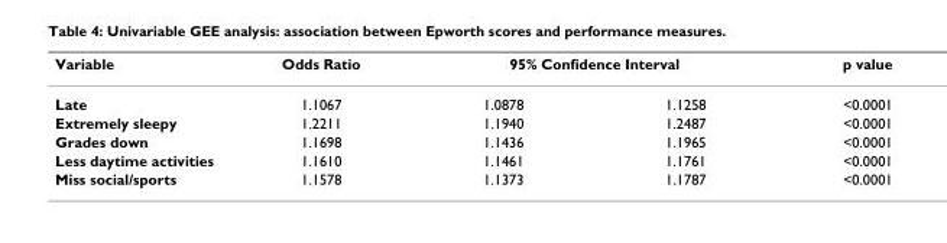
<table><thead><tr><td rowspan="2">Variable Late</td><td rowspan="2">Odds Ratio 1.1067</td><td colspan="2">95% Confidence Interval</td><td rowspan="2">p value &lt;0.0001</td></tr><tr><td>1.0878</td><td>1.1258</td></tr></thead><tbody><tr><td>Extremely sleepy</td><td>1.2211</td><td>1.1940</td><td>1.2487</td><td>&lt;0.0001</td></tr><tr><td>Grades down</td><td>1.1698</td><td>1.1436</td><td>1.1965</td><td>&lt;0.0001</td></tr><tr><td>Less daytime activities</td><td>1.1610</td><td>1.1461</td><td>1.1761</td><td>&lt;0.0001</td></tr><tr><td>Miss social/sports</td><td>1.1578</td><td>1.1373</td><td>1.1787</td><td>&lt;0.0001</td></tr></tbody></table>